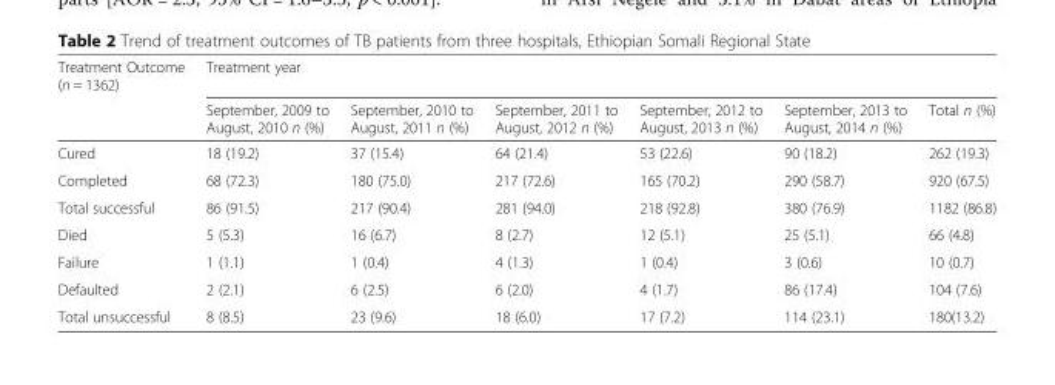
<table><thead><tr><td rowspan="2">Treatment Outcome (n = 1362)</td><td colspan="6">Treatment year</td></tr><tr><td>September, 2009 to August, 2010 n (%)</td><td>September, 2010 to August, 2011 n (%)</td><td>September, 2011 to August, 2012 n (%)</td><td>September, 2012 to August, 2013 n (%)</td><td>September, 2013 to August, 2014 n (%)</td><td>Total n (%)</td></tr></thead><tbody><tr><td>Cured</td><td>18 (19.2)</td><td>37 (15.4)</td><td>64 (21.4)</td><td>53 (22.6)</td><td>90 (18.2)</td><td>262 (19.3)</td></tr><tr><td>Completed</td><td>68 (72.3)</td><td>180 (75.0)</td><td>217 (72.6)</td><td>165 (70.2)</td><td>290 (58.7)</td><td>920 (67.5)</td></tr><tr><td>Total successful</td><td>86 (91.5)</td><td>217 (90.4)</td><td>281 (94.0)</td><td>218 (92.8)</td><td>380 (76.9)</td><td>1182 (86.8)</td></tr><tr><td>Died</td><td>5 (5.3)</td><td>16 (6.7)</td><td>8 (2.7)</td><td>12 (5.1)</td><td>25 (5.1)</td><td>66 (4.8)</td></tr><tr><td>Failure</td><td>1 (1.1)</td><td>1 (0.4)</td><td>4 (1.3)</td><td>1 (0.4)</td><td>3 (0.6)</td><td>10 (0.7)</td></tr><tr><td>Defaulted</td><td>2 (2.1)</td><td>6 (2.5)</td><td>6 (2.0)</td><td>4 (1.7)</td><td>86 (17.4)</td><td>104 (7.6)</td></tr><tr><td>Total unsuccessful</td><td>8 (8.5)</td><td>23 (9.6)</td><td>18 (6.0)</td><td>17 (7.2)</td><td>114 (23.1)</td><td>180(13.2)</td></tr></tbody></table>